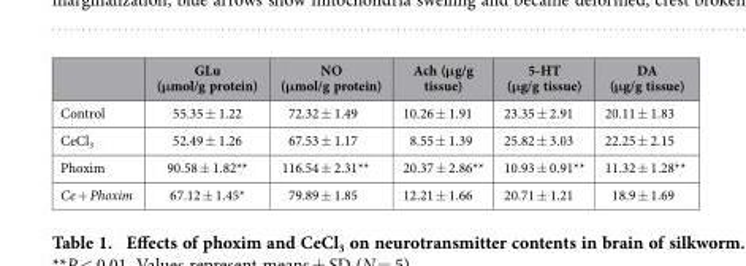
<table><thead><tr><td></td><td>GLu (μmol/g protein)</td><td>NO (μmol/g protein)</td><td>Ach (μg/g tissue)</td><td>5-HT (μg/g tissue)</td><td>DA (μg/g tissue)</td></tr></thead><tbody><tr><td>Control</td><td>55.35 ± 1.22</td><td>72.32 ± 1.49</td><td>10.26 ± 1.91</td><td>23.35 ± 2.91</td><td>20.11 ± 1.83</td></tr><tr><td>CeCl<sub>3</sub></td><td>52.49 ± 1.26</td><td>67.53 ± 1.17</td><td>8.55 ± 1.39</td><td>25.82 ± 3.03</td><td>22.25 ± 2.15</td></tr><tr><td>Phoxim</td><td>90.58 ± 1.82**</td><td>116.54 ± 2.31**</td><td>20.37 ± 2.86**</td><td>10.93 ± 0.91**</td><td>11.32 ± 1.28**</td></tr><tr><td>Ce + Phoxim</td><td>67.12 ± 1.45*</td><td>79.89 ± 1.85</td><td>12.21 ± 1.66</td><td>20.71 ± 1.21</td><td>18.9 ± 1.69</td></tr></tbody></table>